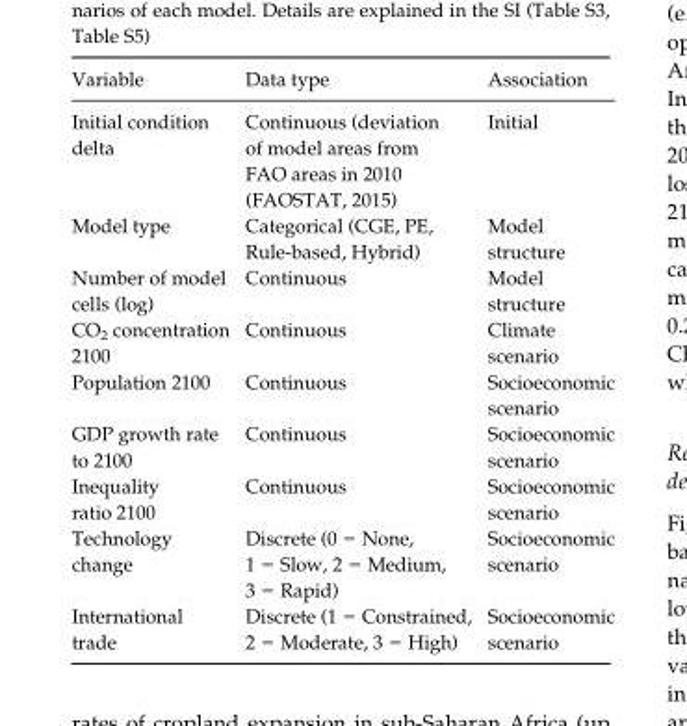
<table><thead><tr><td>Variable</td><td>Data type</td><td>Association</td></tr></thead><tbody><tr><td>Initial condition delta</td><td>Continuous (deviation of model areas from FAO areas in 2010 (FAOSTAT, 2015)</td><td>Initial</td></tr><tr><td>Model type</td><td>Categorical (CGE, PE, Rule-based, Hybrid)</td><td>Model structure</td></tr><tr><td>Number of model cells (log)</td><td>Continuous</td><td>Model structure</td></tr><tr><td>CO<sub>2</sub> concentration 2100</td><td>Continuous</td><td>Climate scenario</td></tr><tr><td>Population 2100</td><td>Continuous</td><td>Socioeconomic scenario</td></tr><tr><td>GDP growth rate to 2100</td><td>Continuous</td><td>Socioeconomic scenario</td></tr><tr><td>Inequality ratio 2100</td><td>Continuous</td><td>Socioeconomic scenario</td></tr><tr><td>Technology change</td><td>Discrete (0 = None, 1 = Slow, 2 = Medium, 3 = Rapid)</td><td>Socioeconomic scenario</td></tr><tr><td>International trade</td><td>Discrete (1 = Constrained, 2 = Moderate, 3 = High)</td><td>Socioeconomic scenario</td></tr></tbody></table>